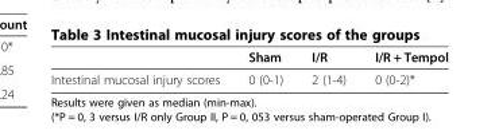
<table><thead><tr><td></td><td>Sham</td><td>I/R</td><td>I/R + Tempol</td></tr></thead><tbody><tr><td>Intestinal mucosal injury scores</td><td>0 (0-1)</td><td>2 (1-4)</td><td>0 (0-2)*</td></tr></tbody></table>